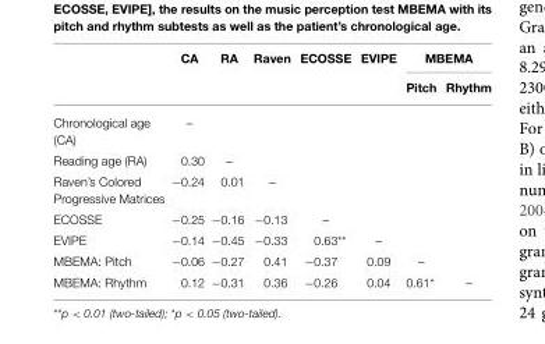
<table><thead><tr><td rowspan="2"></td><td rowspan="2">CA</td><td rowspan="2">RA</td><td rowspan="2">Raven</td><td rowspan="2">ECOSSE</td><td rowspan="2">EVIPE</td><td colspan="2">MBEMA</td></tr><tr><td>Pitch</td><td>Rhythm</td></tr></thead><tbody><tr><td>Chronological age (CA)</td><td>–</td><td></td><td></td><td></td><td></td><td></td><td></td></tr><tr><td>Reading age (RA)</td><td>0.30</td><td>–</td><td></td><td></td><td></td><td></td><td></td></tr><tr><td>Raven’s Colored Progressive Matrices</td><td>−0.24</td><td>0.01</td><td>–</td><td></td><td></td><td></td><td></td></tr><tr><td>ECOSSE</td><td>−0.25</td><td>−0.16</td><td>−0.13</td><td>–</td><td></td><td></td><td></td></tr><tr><td>EVIPE</td><td>−0.14</td><td>−0.45</td><td>−0.33</td><td>0.63**</td><td>–</td><td></td><td></td></tr><tr><td>MBEMA: Pitch</td><td>−0.06</td><td>−0.27</td><td>0.41</td><td>−0.37</td><td>0.09</td><td>–</td><td></td></tr><tr><td>MBEMA: Rhythm</td><td>0.12</td><td>−0.31</td><td>0.36</td><td>−0.26</td><td>0.04</td><td>0.61*</td><td>–</td></tr></tbody></table>